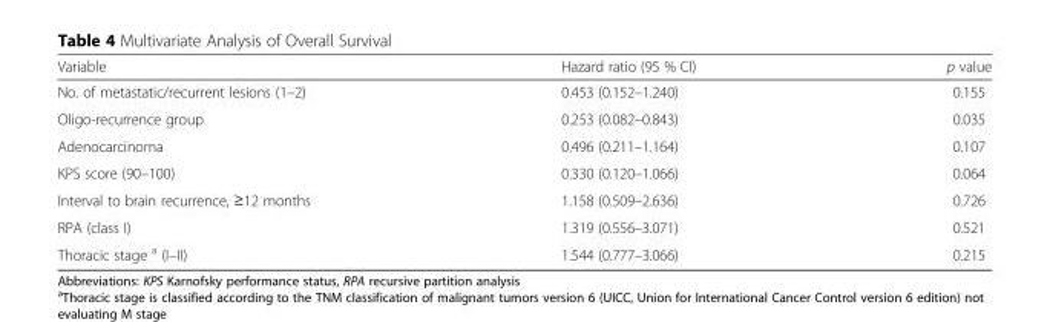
<table><thead><tr><td>Variable</td><td>Hazard ratio (95 % Cl)</td><td>p value</td></tr></thead><tbody><tr><td>No. of metastatic/recurrent lesions (1–2)</td><td>0.453 (0.152–1.240)</td><td>0.155</td></tr><tr><td>Oligo-recurrence group</td><td>0.253 (0.082–0.843)</td><td>0.035</td></tr><tr><td>Adenocarcinoma</td><td>0.496 (0.211–1.164)</td><td>0.107</td></tr><tr><td>KPS score (90–100)</td><td>0.330 (0.120–1.066)</td><td>0.064</td></tr><tr><td>Interval to brain recurrence, ≥12 months</td><td>1.158 (0.509–2.636)</td><td>0.726</td></tr><tr><td>RPA (class I)</td><td>1.319 (0.556–3.071)</td><td>0.521</td></tr><tr><td>Thoracic stage <sup>a</sup> (I–II)</td><td>1.544 (0.777–3.066)</td><td>0.215</td></tr></tbody></table>